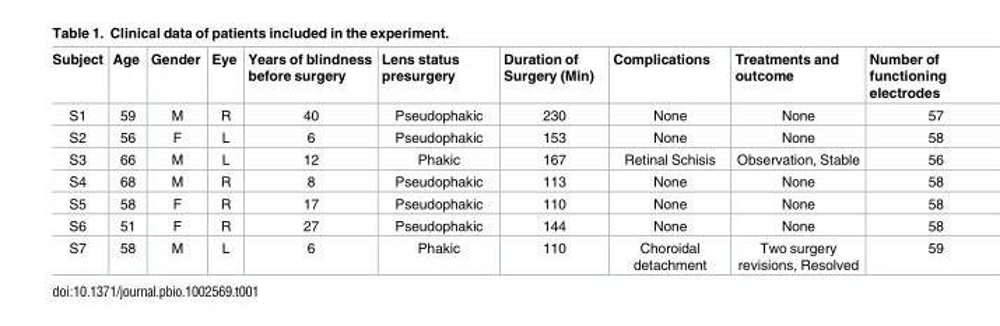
<table><thead><tr><td>Subject</td><td>Age</td><td>Gender</td><td>Eye</td><td>Years of blindness before surgery</td><td>Lens status presurgery</td><td>Duration of Surgery (Min)</td><td>Complications</td><td>Treatments and outcome</td><td>Number of functioning electrodes</td></tr></thead><tbody><tr><td>S1</td><td>59</td><td>M</td><td>R</td><td>40</td><td>Pseudophakic</td><td>230</td><td>None</td><td>None</td><td>57</td></tr><tr><td>S2</td><td>56</td><td>F</td><td>L</td><td>6</td><td>Pseudophakic</td><td>153</td><td>None</td><td>None</td><td>58</td></tr><tr><td>S3</td><td>66</td><td>M</td><td>L</td><td>12</td><td>Phakic</td><td>167</td><td>Retinal Schisis</td><td>Observation, Stable</td><td>56</td></tr><tr><td>S4</td><td>68</td><td>M</td><td>R</td><td>8</td><td>Pseudophakic</td><td>113</td><td>None</td><td>None</td><td>58</td></tr><tr><td>S5</td><td>58</td><td>F</td><td>R</td><td>17</td><td>Pseudophakic</td><td>110</td><td>None</td><td>None</td><td>58</td></tr><tr><td>S6</td><td>51</td><td>F</td><td>R</td><td>27</td><td>Pseudophakic</td><td>144</td><td>None</td><td>None</td><td>58</td></tr><tr><td>S7</td><td>58</td><td>M</td><td>L</td><td>6</td><td>Phakic</td><td>110</td><td>Choroidal detachment</td><td>Two surgery revisions, Resolved</td><td>59</td></tr></tbody></table>